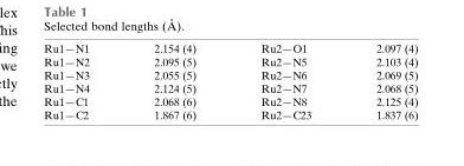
<table><tbody><tr><td>Ru1—N1</td><td>2.154 (4)</td><td>Ru2—O1</td><td>2.097 (4)</td></tr><tr><td>Ru1—N2</td><td>2.095 (5)</td><td>Ru2—N5</td><td>2.103 (4)</td></tr><tr><td>Ru1—N3</td><td>2.055 (5)</td><td>Ru2—N6</td><td>2.069 (5)</td></tr><tr><td>Ru1—N4</td><td>2.124 (5)</td><td>Ru2—N7</td><td>2.068 (5)</td></tr><tr><td>Ru1—C1</td><td>2.068 (6)</td><td>Ru2—N8</td><td>2.125 (4)</td></tr><tr><td>Ru1—C2</td><td>1.867 (6)</td><td>Ru2—C23</td><td>1.837 (6)</td></tr></tbody></table>